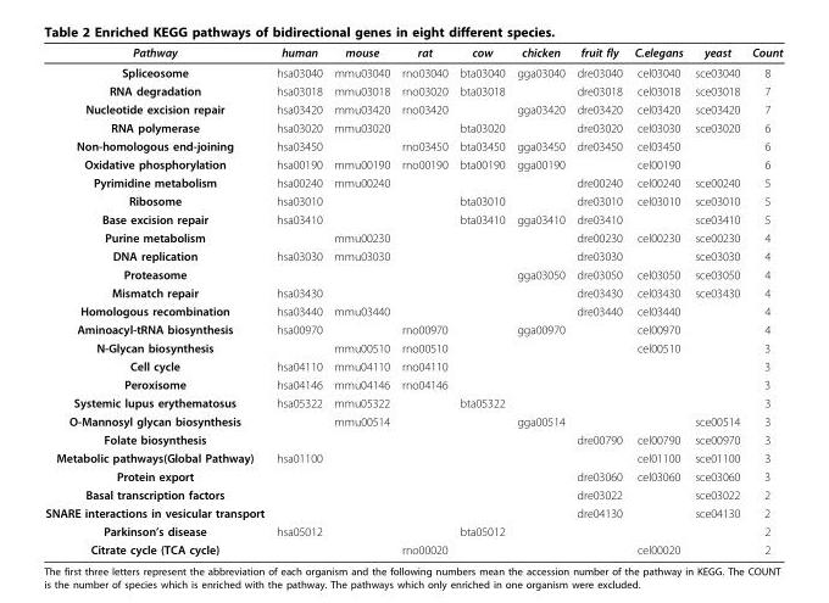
<table><thead><tr><td>Pathway</td><td>human</td><td>mouse</td><td>rat</td><td>cow</td><td>chicken</td><td>fruit fly</td><td>C.elegans</td><td>yeast</td><td>Count</td></tr></thead><tbody><tr><td>Spliceosome</td><td>hsa03040</td><td>mmu03040</td><td>rno03040</td><td>bta03040</td><td>gga03040</td><td>dre03040</td><td>cel03040</td><td>sce03040</td><td>8</td></tr><tr><td>RNA degradation</td><td>hsa03018</td><td>mmu03018</td><td>rno03020</td><td>bta03018</td><td></td><td>dre03018</td><td>cel03018</td><td>sce03018</td><td>7</td></tr><tr><td>Nucleotide excision repair</td><td>hsa03420</td><td>mmu03420</td><td>rno03420</td><td></td><td>gga03420</td><td>dre03420</td><td>cel03420</td><td>sce03420</td><td>7</td></tr><tr><td>RNA polymerase</td><td>hsa03020</td><td>mmu03020</td><td></td><td>bta03020</td><td></td><td>dre03020</td><td>cel03030</td><td>sce03020</td><td>6</td></tr><tr><td>Non-homologous end-joining</td><td>hsa03450</td><td></td><td>rno03450</td><td>bta03450</td><td>gga03450</td><td>dre03450</td><td>cel03450</td><td></td><td>6</td></tr><tr><td>Oxidative phosphorylation</td><td>hsa00190</td><td>mmu00190</td><td>rno00190</td><td>bta00190</td><td>gga00190</td><td></td><td>cel00190</td><td></td><td>6</td></tr><tr><td>Pyrimidine metabolism</td><td>hsa00240</td><td>mmu00240</td><td></td><td></td><td></td><td>dre00240</td><td>cel00240</td><td>sce00240</td><td>5</td></tr><tr><td>Ribosome</td><td>hsa03010</td><td></td><td></td><td>bta03010</td><td></td><td>dre03010</td><td>cel03010</td><td>sce03010</td><td>5</td></tr><tr><td>Base excision repair</td><td>hsa03410</td><td></td><td></td><td>bta03410</td><td>gga03410</td><td>dre03410</td><td></td><td>sce03410</td><td>5</td></tr><tr><td>Purine metabolism</td><td></td><td>mmu00230</td><td></td><td></td><td></td><td>dre00230</td><td>cel00230</td><td>sce00230</td><td>4</td></tr><tr><td>DNA replication</td><td>hsa03030</td><td>mmu03030</td><td></td><td></td><td></td><td>dre03030</td><td></td><td>sce03030</td><td>4</td></tr><tr><td>Proteasome</td><td></td><td></td><td></td><td></td><td>gga03050</td><td>dre03050</td><td>cel03050</td><td>sce03050</td><td>4</td></tr><tr><td>Mismatch repair</td><td>hsa03430</td><td></td><td></td><td></td><td></td><td>dre03430</td><td>cel03430</td><td>sce03430</td><td>4</td></tr><tr><td>Homologous recombination</td><td>hsa03440</td><td>mmu03440</td><td></td><td></td><td></td><td>dre03440</td><td>cel03440</td><td></td><td>4</td></tr><tr><td>Aminoacyl-tRNA biosynthesis</td><td>hsa00970</td><td></td><td>rno00970</td><td></td><td>gga00970</td><td></td><td>cel00970</td><td></td><td>4</td></tr><tr><td>N-Glycan biosynthesis</td><td></td><td>mmu00510</td><td>rno00510</td><td></td><td></td><td></td><td>cel00510</td><td></td><td>3</td></tr><tr><td>Cell cycle</td><td>hsa04110</td><td>mmu04110</td><td>rno04110</td><td></td><td></td><td></td><td></td><td></td><td>3</td></tr><tr><td>Peroxisome</td><td>hsa04146</td><td>mmu04146</td><td>rno04146</td><td></td><td></td><td></td><td></td><td></td><td>3</td></tr><tr><td>Systemic lupus erythematosus</td><td>hsa05322</td><td>mmu05322</td><td></td><td>bta05322</td><td></td><td></td><td></td><td></td><td>3</td></tr><tr><td>O-Mannosyl glycan biosynthesis</td><td></td><td>mmu00514</td><td></td><td></td><td>gga00514</td><td></td><td></td><td>sce00514</td><td>3</td></tr><tr><td>Folate biosynthesis</td><td></td><td></td><td></td><td></td><td></td><td>dre00790</td><td>cel00790</td><td>sce00970</td><td>3</td></tr><tr><td>Metabolic pathways(Global Pathway)</td><td>hsa01100</td><td></td><td></td><td></td><td></td><td></td><td>cel01100</td><td>sce01100</td><td>3</td></tr><tr><td>Protein export</td><td></td><td></td><td></td><td></td><td></td><td>dre03060</td><td>cel03060</td><td>sce03060</td><td>3</td></tr><tr><td>Basal transcription factors</td><td></td><td></td><td></td><td></td><td></td><td>dre03022</td><td></td><td>sce03022</td><td>2</td></tr><tr><td>SNARE interactions in vesicular transport</td><td></td><td></td><td></td><td></td><td></td><td>dre04130</td><td></td><td>sce04130</td><td>2</td></tr><tr><td>Parkinson’s disease</td><td>hsa05012</td><td></td><td></td><td>bta05012</td><td></td><td></td><td></td><td></td><td>2</td></tr><tr><td>Citrate cycle (TCA cycle)</td><td></td><td></td><td>rno00020</td><td></td><td></td><td></td><td>cel00020</td><td></td><td>2</td></tr></tbody></table>